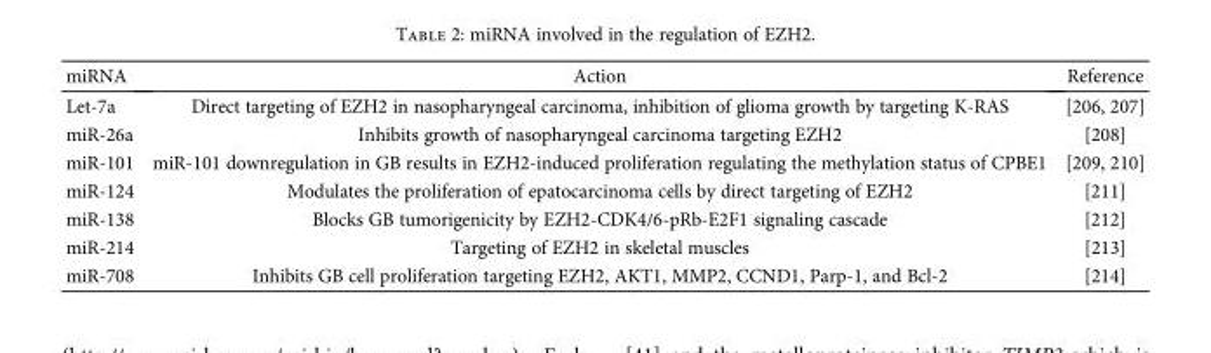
<table><thead><tr><td>miRNA</td><td>Action</td><td>Reference</td></tr></thead><tbody><tr><td>Let-7a</td><td>Direct targeting of EZH2 in nasopharyngeal carcinoma, inhibition of glioma growth by targeting K-RAS</td><td>[206, 207]</td></tr><tr><td>miR-26a</td><td>Inhibits growth of nasopharyngeal carcinoma targeting EZH2</td><td>[208]</td></tr><tr><td>miR-101</td><td>miR-101 downregulation in GB results in EZH2-induced proliferation regulating the methylation status of CPBE1</td><td>[209, 210]</td></tr><tr><td>miR-124</td><td>Modulates the proliferation of epatocarcinoma cells by direct targeting of EZH2</td><td>[211]</td></tr><tr><td>miR-138</td><td>Blocks GB tumorigenicity by EZH2-CDK4/6-pRb-E2F1 signaling cascade</td><td>[212]</td></tr><tr><td>miR-214</td><td>Targeting of EZH2 in skeletal muscles</td><td>[213]</td></tr><tr><td>miR-708</td><td>Inhibits GB cell proliferation targeting EZH2, AKT1, MMP2, CCND1, Parp-1, and Bcl-2</td><td>[214]</td></tr></tbody></table>